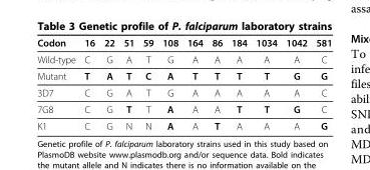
<table><thead><tr><td>Codon</td><td>16</td><td>22</td><td>51</td><td>59</td><td>108</td><td>164</td><td>86</td><td>184</td><td>1034</td><td>1042</td><td>581</td></tr></thead><tbody><tr><td>Wild-type</td><td>C</td><td>G</td><td>A</td><td>T</td><td>G</td><td>A</td><td>A</td><td>A</td><td>A</td><td>A</td><td>C</td></tr><tr><td>Mutant</td><td>T</td><td>A</td><td>T</td><td>C</td><td>A</td><td>T</td><td>T</td><td>T</td><td>T</td><td>G</td><td>G</td></tr><tr><td>3D7</td><td>C</td><td>G</td><td>A</td><td>T</td><td>G</td><td>A</td><td>A</td><td>A</td><td>A</td><td>A</td><td>C</td></tr><tr><td>7G8</td><td>C</td><td>G</td><td>T</td><td>T</td><td>A</td><td>A</td><td>A</td><td>T</td><td>T</td><td>G</td><td>C</td></tr><tr><td>K1</td><td>C</td><td>G</td><td>N</td><td>N</td><td>A</td><td>A</td><td>T</td><td>A</td><td>A</td><td>A</td><td>G</td></tr></tbody></table>